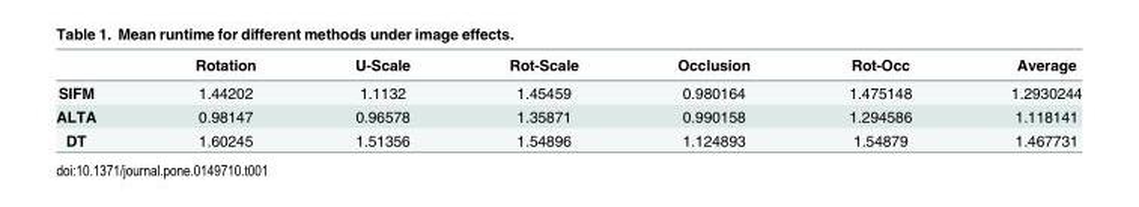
<table><thead><tr><td></td><td>Rotation</td><td>U-Scale</td><td>Rot-Scale</td><td>Occlusion</td><td>Rot-Occ</td><td>Average</td></tr></thead><tbody><tr><td>SIFM</td><td>1.44202</td><td>1.1132</td><td>1.45459</td><td>0.980164</td><td>1.475148</td><td>1.2930244</td></tr><tr><td>ALTA</td><td>0.98147</td><td>0.96578</td><td>1.35871</td><td>0.990158</td><td>1.294586</td><td>1.118141</td></tr><tr><td>DT</td><td>1.60245</td><td>1.51356</td><td>1.54896</td><td>1.124893</td><td>1.54879</td><td>1.467731</td></tr></tbody></table>